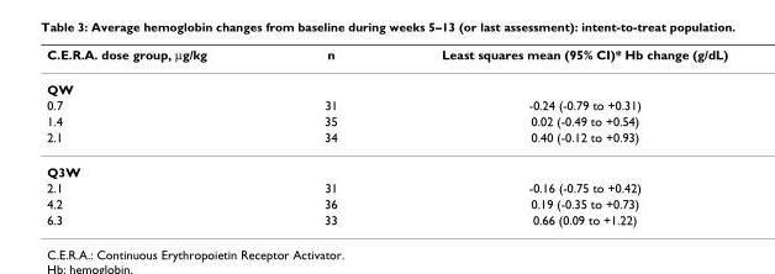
<table><thead><tr><td>C.E.R.A. dose group, μg/kg</td><td>n</td><td>Least squares mean (95% CI)* Hb change (g/dL)</td></tr></thead><tbody><tr><td colspan="3">QW</td></tr><tr><td>0.7</td><td>31</td><td>-0.24 (-0.79 to +0.31)</td></tr><tr><td>1.4</td><td>35</td><td>0.02 (-0.49 to +0.54)</td></tr><tr><td>2.1</td><td>34</td><td>0.40 (-0.12 to +0.93)</td></tr><tr><td colspan="3">Q3W</td></tr><tr><td>2.1</td><td>31</td><td>-0.16 (-0.75 to +0.42)</td></tr><tr><td>4.2</td><td>36</td><td>0.19 (-0.35 to +0.73)</td></tr><tr><td>6.3</td><td>33</td><td>0.66 (0.09 to +1.22)</td></tr></tbody></table>